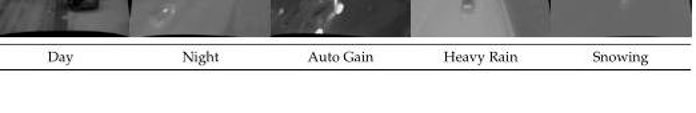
<table><tbody><tr><td>Day</td><td>Night</td><td>Auto Gain</td><td>Heavy Rain</td><td>Snowing</td></tr></tbody></table>